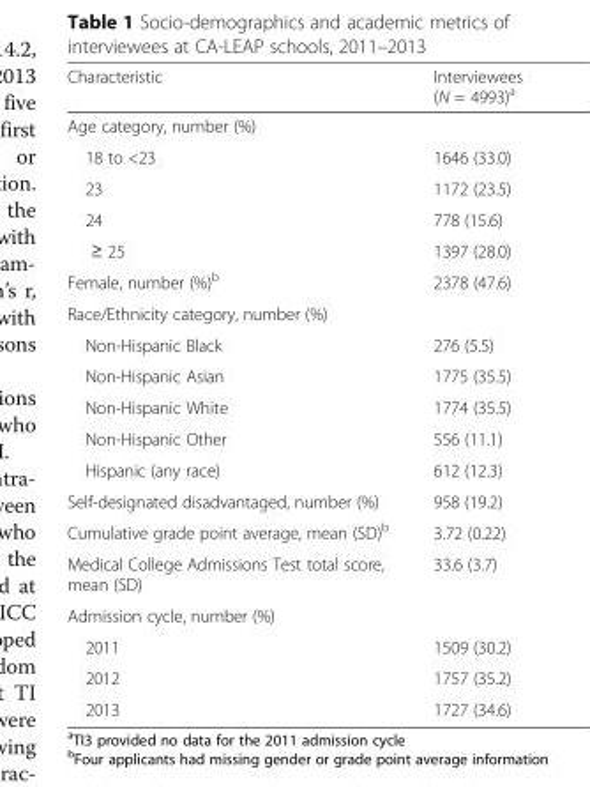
<table><thead><tr><td>Characteristic</td><td>Interviewees (N = 4993)<sup>a</sup></td></tr></thead><tbody><tr><td colspan="2">Age category, number (%)</td></tr><tr><td>18 to &lt;23</td><td>1646 (33.0)</td></tr><tr><td>23</td><td>1172 (23.5)</td></tr><tr><td>24</td><td>778 (15.6)</td></tr><tr><td>≥ 25</td><td>1397 (28.0)</td></tr><tr><td>Female, number (%)<sup>b</sup></td><td>2378 (47.6)</td></tr><tr><td colspan="2">Race/Ethnicity category, number (%)</td></tr><tr><td>Non-Hispanic Black</td><td>276 (5.5)</td></tr><tr><td>Non-Hispanic Asian</td><td>1775 (35.5)</td></tr><tr><td>Non-Hispanic White</td><td>1774 (35.5)</td></tr><tr><td>Non-Hispanic Other</td><td>556 (11.1)</td></tr><tr><td>Hispanic (any race)</td><td>612 (12.3)</td></tr><tr><td>Self-designated disadvantaged, number (%)</td><td>958 (19.2)</td></tr><tr><td>Cumulative grade point average, mean (SD)<sup>b</sup></td><td>3.72 (0.22)</td></tr><tr><td>Medical College Admissions Test total score, mean (SD)</td><td>33.6 (3.7)</td></tr><tr><td colspan="2">Admission cycle, number (%)</td></tr><tr><td>2011</td><td>1509 (30.2)</td></tr><tr><td>2012</td><td>1757 (35.2)</td></tr><tr><td>2013</td><td>1727 (34.6)</td></tr></tbody></table>